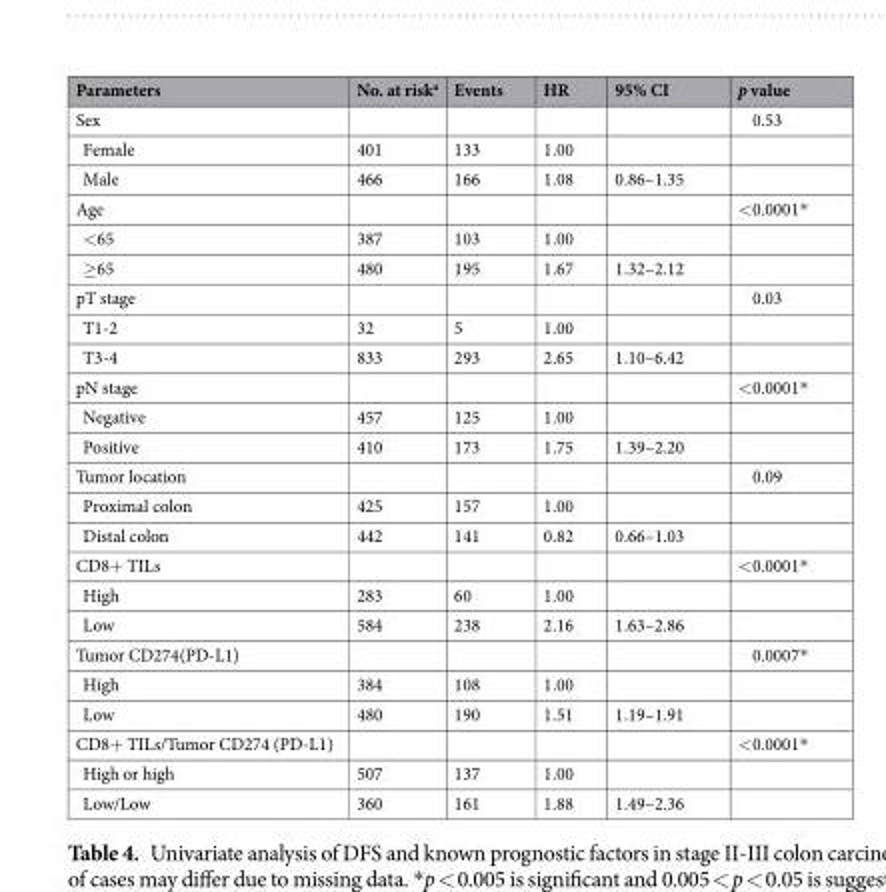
<table><thead><tr><td>Parameters</td><td>No. at risk<sup>a</sup></td><td>Events</td><td>HR</td><td>95% CI</td><td>p value</td></tr></thead><tbody><tr><td>Sex</td><td></td><td></td><td></td><td></td><td>0.53</td></tr><tr><td>Female</td><td>401</td><td>133</td><td>1.00</td><td></td><td></td></tr><tr><td>Male</td><td>466</td><td>166</td><td>1.08</td><td>0.86–1.35</td><td></td></tr><tr><td>Age</td><td></td><td></td><td></td><td></td><td>&lt;0.0001*</td></tr><tr><td>&lt;65</td><td>387</td><td>103</td><td>1.00</td><td></td><td></td></tr><tr><td>≥65</td><td>480</td><td>195</td><td>1.67</td><td>1.32–2.12</td><td></td></tr><tr><td>pT stage</td><td></td><td></td><td></td><td></td><td>0.03</td></tr><tr><td>T1-2</td><td>32</td><td>5</td><td>1.00</td><td></td><td></td></tr><tr><td>T3-4</td><td>833</td><td>293</td><td>2.65</td><td>1.10–6.42</td><td></td></tr><tr><td>pN stage</td><td></td><td></td><td></td><td></td><td>&lt;0.0001*</td></tr><tr><td>Negative</td><td>457</td><td>125</td><td>1.00</td><td></td><td></td></tr><tr><td>Positive</td><td>410</td><td>173</td><td>1.75</td><td>1.39–2.20</td><td></td></tr><tr><td>Tumor location</td><td></td><td></td><td></td><td></td><td>0.09</td></tr><tr><td>Proximal colon</td><td>425</td><td>157</td><td>1.00</td><td></td><td></td></tr><tr><td>Distal colon</td><td>442</td><td>141</td><td>0.82</td><td>0.66–1.03</td><td></td></tr><tr><td>CD8+ TILs</td><td></td><td></td><td></td><td></td><td>&lt;0.0001*</td></tr><tr><td>High</td><td>283</td><td>60</td><td>1.00</td><td></td><td></td></tr><tr><td>Low</td><td>584</td><td>238</td><td>2.16</td><td>1.63–2.86</td><td></td></tr><tr><td>Tumor CD274(PD-L1)</td><td></td><td></td><td></td><td></td><td>0.0007*</td></tr><tr><td>High</td><td>384</td><td>108</td><td>1.00</td><td></td><td></td></tr><tr><td>Low</td><td>480</td><td>190</td><td>1.51</td><td>1.19–1.91</td><td></td></tr><tr><td>CD8+ TILs/Tumor CD274 (PD-L1)</td><td></td><td></td><td></td><td></td><td>&lt;0.0001*</td></tr><tr><td>High or high</td><td>507</td><td>137</td><td>1.00</td><td></td><td></td></tr><tr><td>Low/Low</td><td>360</td><td>161</td><td>1.88</td><td>1.49–2.36</td><td></td></tr></tbody></table>